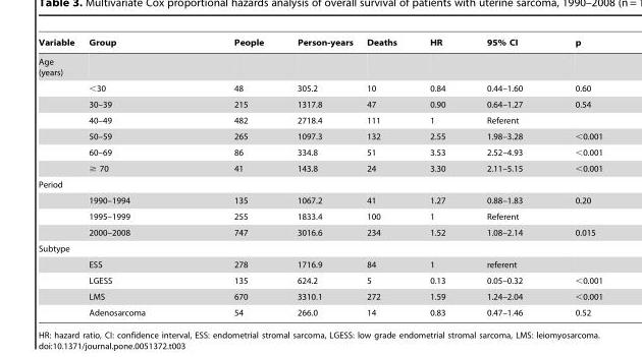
<table><thead><tr><td>Variable</td><td>Group</td><td>People</td><td>Person-years</td><td>Deaths</td><td>HR</td><td>95% CI</td><td>p</td></tr></thead><tbody><tr><td colspan="8">Age (years)</td></tr><tr><td></td><td>&lt;30</td><td>48</td><td>305.2</td><td>10</td><td>0.84</td><td>0.44–1.60</td><td>0.60</td></tr><tr><td></td><td>30–39</td><td>215</td><td>1317.8</td><td>47</td><td>0.90</td><td>0.64–1.27</td><td>0.54</td></tr><tr><td></td><td>40–49</td><td>482</td><td>2718.4</td><td>111</td><td>1</td><td>Referent</td><td></td></tr><tr><td></td><td>50–59</td><td>265</td><td>1097.3</td><td>132</td><td>2.55</td><td>1.98–3.28</td><td>&lt;0.001</td></tr><tr><td></td><td>60–69</td><td>86</td><td>334.8</td><td>51</td><td>3.53</td><td>2.52–4.93</td><td>&lt;0.001</td></tr><tr><td></td><td>≥ 70</td><td>41</td><td>143.8</td><td>24</td><td>3.30</td><td>2.11–5.15</td><td>&lt;0.001</td></tr><tr><td colspan="8">Period</td></tr><tr><td></td><td>1990–1994</td><td>135</td><td>1067.2</td><td>41</td><td>1.27</td><td>0.88–1.83</td><td>0.20</td></tr><tr><td></td><td>1995–1999</td><td>255</td><td>1833.4</td><td>100</td><td>1</td><td>Referent</td><td></td></tr><tr><td></td><td>2000–2008</td><td>747</td><td>3016.6</td><td>234</td><td>1.52</td><td>1.08–2.14</td><td>0.015</td></tr><tr><td colspan="8">Subtype</td></tr><tr><td></td><td>ESS</td><td>278</td><td>1716.9</td><td>84</td><td>1</td><td>referent</td><td></td></tr><tr><td></td><td>LGESS</td><td>135</td><td>624.2</td><td>5</td><td>0.13</td><td>0.05–0.32</td><td>&lt;0.001</td></tr><tr><td></td><td>LMS</td><td>670</td><td>3310.1</td><td>272</td><td>1.59</td><td>1.24–2.04</td><td>&lt;0.001</td></tr><tr><td></td><td>Adenosarcoma</td><td>54</td><td>266.0</td><td>14</td><td>0.83</td><td>0.47–1.46</td><td>0.52</td></tr></tbody></table>